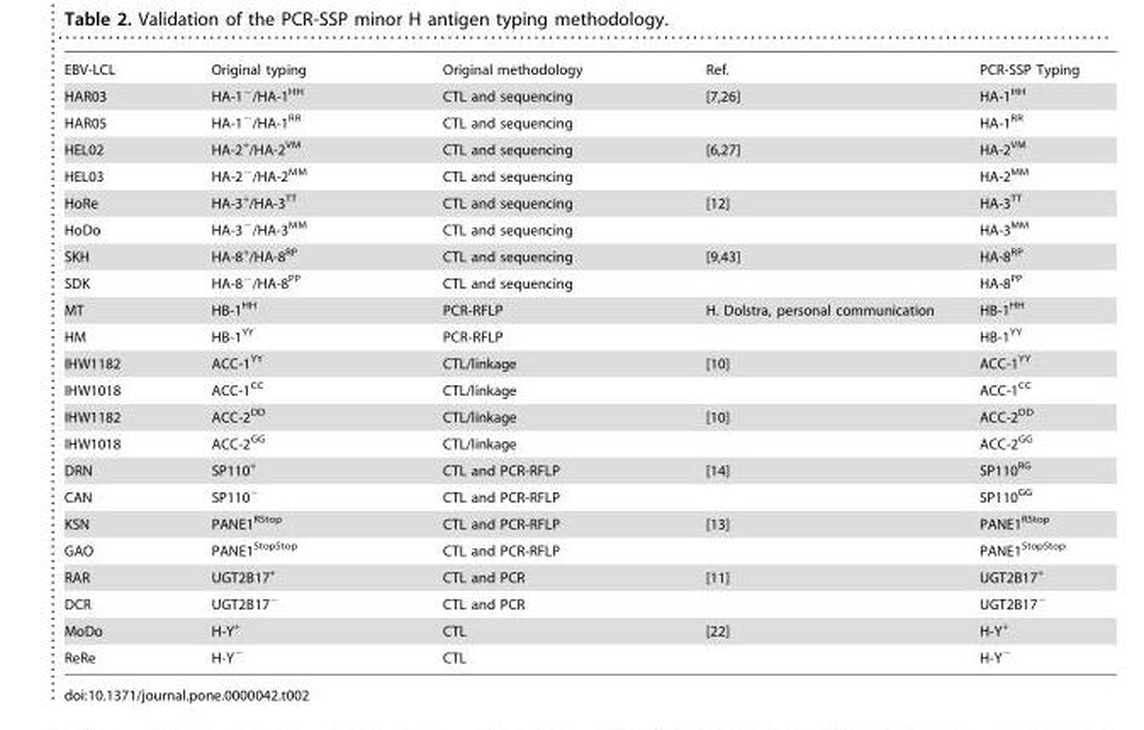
<table><tbody><tr><td>EBV-LCL</td><td>Original typing</td><td>Original methodology</td><td>Ref.</td><td>PCR-SSP Typing</td></tr><tr><td>HAR03</td><td>HA-1<sup>−</sup>/HA-1<sup>HH</sup></td><td>CTL and sequencing</td><td>[7,26]</td><td>HA-1<sup>HH</sup></td></tr><tr><td>HAR05</td><td>HA-1<sup>−</sup>/HA-1<sup>RR</sup></td><td>CTL and sequencing</td><td></td><td>HA-1<sup>RR</sup></td></tr><tr><td>HEL02</td><td>HA-2<sup>+</sup>/HA-2<sup>VM</sup></td><td>CTL and sequencing</td><td>[6,27]</td><td>HA-2<sup>VM</sup></td></tr><tr><td>HEL03</td><td>HA-2<sup>−</sup>/HA-2<sup>MM</sup></td><td>CTL and sequencing</td><td></td><td>HA-2<sup>MM</sup></td></tr><tr><td>HoRe</td><td>HA-3<sup>+</sup>/HA-3<sup>TT</sup></td><td>CTL and sequencing</td><td>[12]</td><td>HA-3<sup>TT</sup></td></tr><tr><td>HoDo</td><td>HA-3<sup>−</sup>/HA-3<sup>MM</sup></td><td>CTL and sequencing</td><td></td><td>HA-3<sup>MM</sup></td></tr><tr><td>SKH</td><td>HA-8<sup>+</sup>/HA-8<sup>RP</sup></td><td>CTL and sequencing</td><td>[9,43]</td><td>HA-8<sup>RP</sup></td></tr><tr><td>SDK</td><td>HA-8<sup>−</sup>/HA-8<sup>PP</sup></td><td>CTL and sequencing</td><td></td><td>HA-8<sup>PP</sup></td></tr><tr><td>MT</td><td>HB-1<sup>HH</sup></td><td>PCR-RFLP</td><td>H. Dolstra, personal communication</td><td>HB-1<sup>HH</sup></td></tr><tr><td>HM</td><td>HB-1<sup>YY</sup></td><td>PCR-RFLP</td><td></td><td>HB-1<sup>YY</sup></td></tr><tr><td>IHW1182</td><td>ACC-1<sup>YY</sup></td><td>CTL/linkage</td><td>[10]</td><td>ACC-1<sup>YY</sup></td></tr><tr><td>IHW1018</td><td>ACC-1<sup>CC</sup></td><td>CTL/linkage</td><td></td><td>ACC-1<sup>CC</sup></td></tr><tr><td>IHW1182</td><td>ACC-2<sup>DD</sup></td><td>CTL/linkage</td><td>[10]</td><td>ACC-2<sup>DD</sup></td></tr><tr><td>IHW1018</td><td>ACC-2<sup>GG</sup></td><td>CTL/linkage</td><td></td><td>ACC-2<sup>GG</sup></td></tr><tr><td>DRN</td><td>SP110<sup>+</sup></td><td>CTL and PCR-RFLP</td><td>[14]</td><td>SP110<sup>RG</sup></td></tr><tr><td>CAN</td><td>SP110<sup>−</sup></td><td>CTL and PCR-RFLP</td><td></td><td>SP110<sup>GG</sup></td></tr><tr><td>KSN</td><td>PANE1<sup>RStop</sup></td><td>CTL and PCR-RFLP</td><td>[13]</td><td>PANE1<sup>RStop</sup></td></tr><tr><td>GAO</td><td>PANE1<sup>StopStop</sup></td><td>CTL and PCR-RFLP</td><td></td><td>PANE1<sup>StopStop</sup></td></tr><tr><td>RAR</td><td>UGT2B17<sup>+</sup></td><td>CTL and PCR</td><td>[11]</td><td>UGT2B17<sup>+</sup></td></tr><tr><td>DCR</td><td>UGT2B17<sup>−</sup></td><td>CTL and PCR</td><td></td><td>UGT2B17<sup>−</sup></td></tr><tr><td>MoDo</td><td>H-Y<sup>+</sup></td><td>CTL</td><td>[22]</td><td>H-Y<sup>+</sup></td></tr><tr><td>ReRe</td><td>H-Y<sup>−</sup></td><td>CTL</td><td></td><td>H-Y<sup>−</sup></td></tr></tbody></table>